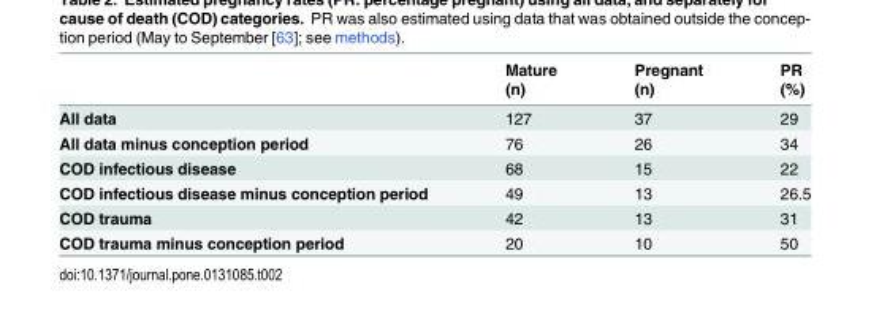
<table><thead><tr><td rowspan="2"></td><td rowspan="2">Mature (n)</td><td rowspan="2">Pregnant (n)</td><td rowspan="2">PR (%)</td></tr><tr></tr></thead><tbody><tr><td>All data</td><td>127</td><td>37</td><td>29</td></tr><tr><td>All data minus conception period</td><td>76</td><td>26</td><td>34</td></tr><tr><td>COD infectious disease</td><td>68</td><td>15</td><td>22</td></tr><tr><td>COD infectious disease minus conception period</td><td>49</td><td>13</td><td>26.5</td></tr><tr><td>COD trauma</td><td>42</td><td>13</td><td>31</td></tr><tr><td>COD trauma minus conception period</td><td>20</td><td>10</td><td>50</td></tr></tbody></table>